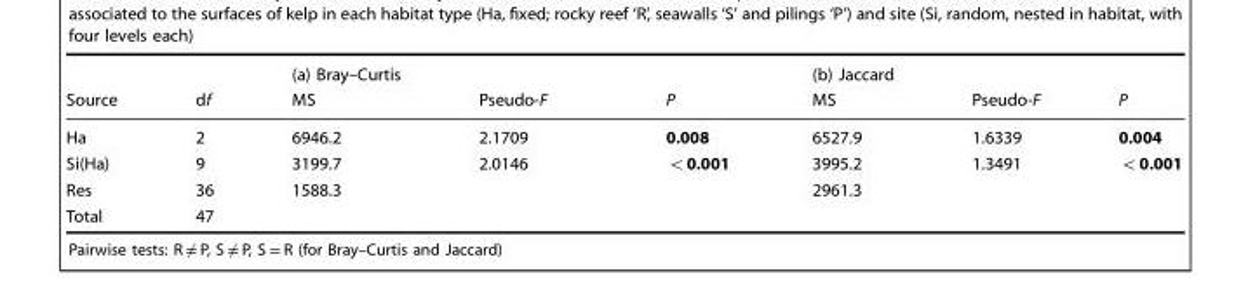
<table><thead><tr><td rowspan="2">Source</td><td rowspan="2">df</td><td rowspan="2">(a) Bray–Curtis MS</td><td rowspan="2">Pseudo-F</td><td rowspan="2">P</td><td rowspan="2">(b) Jaccard MS</td><td rowspan="2">Pseudo-F</td><td rowspan="2">P</td></tr><tr></tr></thead><tbody><tr><td>Ha</td><td>2</td><td>6946.2</td><td>2.1709</td><td>0.008</td><td>6527.9</td><td>1.6339</td><td>0.004</td></tr><tr><td>Si(Ha)</td><td>9</td><td>3199.7</td><td>2.0146</td><td>&lt;0.001</td><td>3995.2</td><td>1.3491</td><td>&lt;0.001</td></tr><tr><td>Res</td><td>36</td><td>1588.3</td><td></td><td></td><td>2961.3</td><td></td><td></td></tr><tr><td>Total</td><td>47</td><td></td><td></td><td></td><td></td><td></td><td></td></tr></tbody></table>